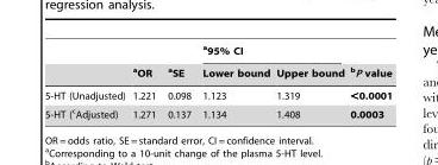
<table><thead><tr><td rowspan="2"></td><td rowspan="2">aOR</td><td rowspan="2">aSE</td><td colspan="2">a95% CI</td><td rowspan="2">bP value</td></tr><tr><td>Lower bound</td><td>Upper bound</td></tr></thead><tbody><tr><td>5-HT (Unadjusted)</td><td>1.221</td><td>0.098</td><td>1.123</td><td>1.319</td><td>&lt;0.0001</td></tr><tr><td>5-HT (cAdjusted)</td><td>1.271</td><td>0.137</td><td>1.134</td><td>1.408</td><td>0.0003</td></tr></tbody></table>